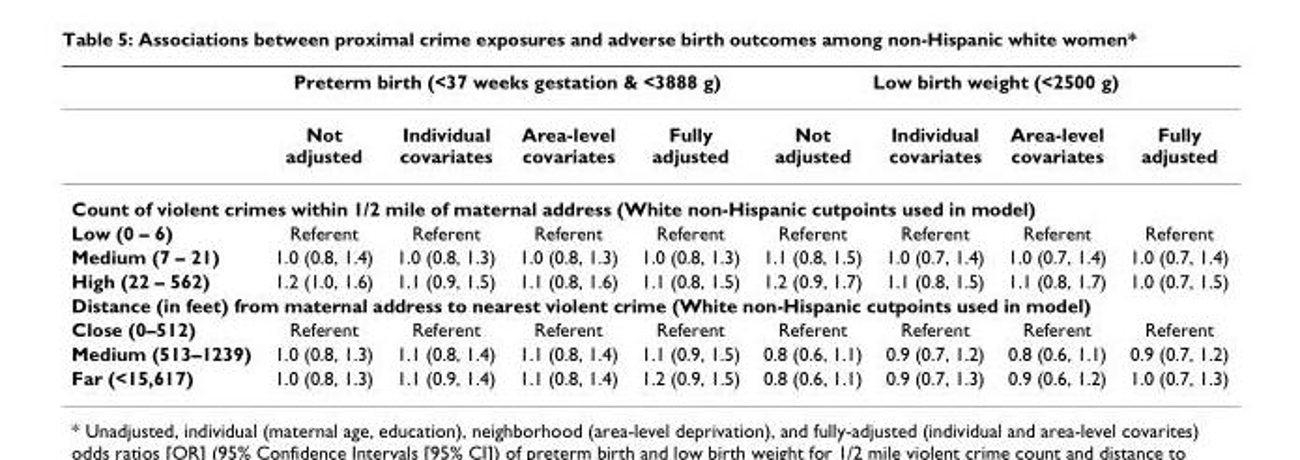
<table><thead><tr><td rowspan="2"></td><td colspan="4">Preterm birth (&lt;37 weeks gestation &amp; &lt;3888 g)</td><td colspan="4">Low birth weight (&lt;2500 g)</td></tr><tr><td>Not adjusted</td><td>Individual covariates</td><td>Area-level covariates</td><td>Fully adjusted</td><td>Not adjusted</td><td>Individual covariates</td><td>Area-level covariates</td><td>Fully adjusted</td></tr></thead><tbody><tr><td colspan="9">Count of violent crimes within 1/2 mile of maternal address (White non-Hispanic cutpoints used in model)</td></tr><tr><td>Low (0 – 6)</td><td>Referent</td><td>Referent</td><td>Referent</td><td>Referent</td><td>Referent</td><td>Referent</td><td>Referent</td><td>Referent</td></tr><tr><td>Medium (7 – 21)</td><td>1.0 (0.8, 1.4)</td><td>1.0 (0.8, 1.3)</td><td>1.0 (0.8, 1.3)</td><td>1.0 (0.8, 1.3)</td><td>1.1 (0.8, 1.5)</td><td>1.0 (0.7, 1.4)</td><td>1.0 (0.7, 1.4)</td><td>1.0 (0.7, 1.4)</td></tr><tr><td>High (22 – 562)</td><td>1.2 (1.0, 1.6)</td><td>1.1 (0.9, 1.5)</td><td>1.1 (0.8, 1.6)</td><td>1.1 (0.8, 1.5)</td><td>1.2 (0.9, 1.7)</td><td>1.1 (0.8, 1.5)</td><td>1.1 (0.8, 1.7)</td><td>1.0 (0.7, 1.5)</td></tr><tr><td colspan="9">Distance (in feet) from maternal address to nearest violent crime (White non-Hispanic cutpoints used in model)</td></tr><tr><td>Close (0–512)</td><td>Referent</td><td>Referent</td><td>Referent</td><td>Referent</td><td>Referent</td><td>Referent</td><td>Referent</td><td>Referent</td></tr><tr><td>Medium (513–1239)</td><td>1.0 (0.8, 1.3)</td><td>1.1 (0.8, 1.4)</td><td>1.1 (0.8, 1.4)</td><td>1.1 (0.9, 1.5)</td><td>0.8 (0.6, 1.1)</td><td>0.9 (0.7, 1.2)</td><td>0.8 (0.6, 1.1)</td><td>0.9 (0.7, 1.2)</td></tr><tr><td>Far (&lt;15,617)</td><td>1.0 (0.8, 1.3)</td><td>1.1 (0.9, 1.4)</td><td>1.1 (0.8, 1.4)</td><td>1.2 (0.9, 1.5)</td><td>0.8 (0.6, 1.1)</td><td>0.9 (0.7, 1.3)</td><td>0.9 (0.6, 1.2)</td><td>1.0 (0.7, 1.3)</td></tr></tbody></table>